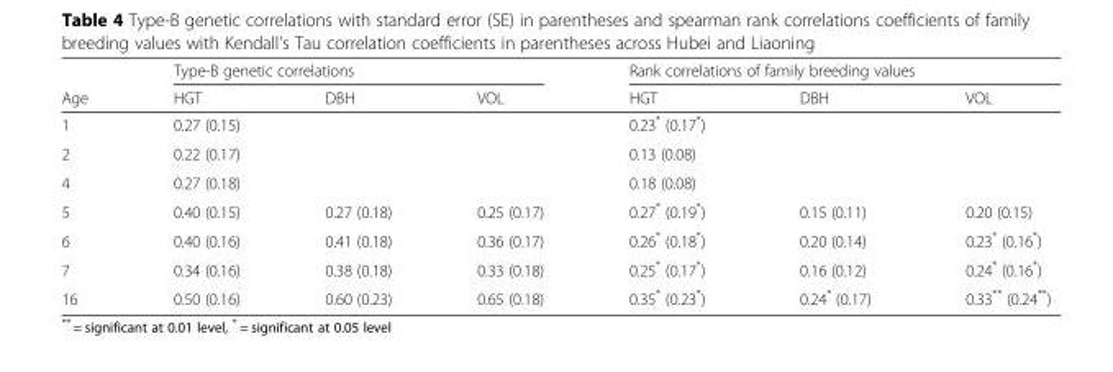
<table><thead><tr><td rowspan="2">Age</td><td colspan="3">Type-B genetic correlations</td><td colspan="3">Rank correlations of family breeding values</td></tr><tr><td>HGT</td><td>DBH</td><td>VOL</td><td>HGT</td><td>DBH</td><td>VOL</td></tr></thead><tbody><tr><td>1</td><td>0.27 (0.15)</td><td></td><td></td><td>0.23* (0.17*)</td><td></td><td></td></tr><tr><td>2</td><td>0.22 (0.17)</td><td></td><td></td><td>0.13 (0.08)</td><td></td><td></td></tr><tr><td>4</td><td>0.27 (0.18)</td><td></td><td></td><td>0.18 (0.08)</td><td></td><td></td></tr><tr><td>5</td><td>0.40 (0.15)</td><td>0.27 (0.18)</td><td>0.25 (0.17)</td><td>0.27* (0.19*)</td><td>0.15 (0.11)</td><td>0.20 (0.15)</td></tr><tr><td>6</td><td>0.40 (0.16)</td><td>0.41 (0.18)</td><td>0.36 (0.17)</td><td>0.26* (0.18*)</td><td>0.20 (0.14)</td><td>0.23* (0.16*)</td></tr><tr><td>7</td><td>0.34 (0.16)</td><td>0.38 (0.18)</td><td>0.33 (0.18)</td><td>0.25* (0.17*)</td><td>0.16 (0.12)</td><td>0.24* (0.16*)</td></tr><tr><td>16</td><td>0.50 (0.16)</td><td>0.60 (0.23)</td><td>0.65 (0.18)</td><td>0.35* (0.23*)</td><td>0.24* (0.17)</td><td>0.33** (0.24**)</td></tr></tbody></table>